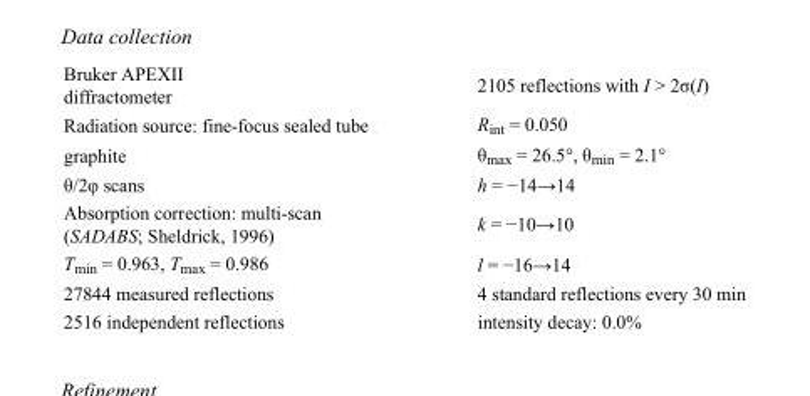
<table><tbody><tr><td>Bruker APEXII diffractometer</td><td>2105 reflections with I &gt; 2σ(I)</td></tr><tr><td>Radiation source: fine-focus sealed tube</td><td>R<sub>int</sub> = 0.050</td></tr><tr><td>graphite</td><td>θ<sub>max</sub> = 26.5°, θ<sub>min</sub> = 2.1°</td></tr><tr><td>θ/2φ scans</td><td>h = −14→14</td></tr><tr><td>Absorption correction: multi-scan (SADABS; Sheldrick, 1996)</td><td>k = −10→10</td></tr><tr><td>T<sub>min</sub> = 0.963, T<sub>max</sub> = 0.986</td><td>l = −16→14</td></tr><tr><td>27844 measured reflections</td><td>4 standard reflections every 30 min</td></tr><tr><td>2516 independent reflections</td><td>intensity decay: 0.0%</td></tr></tbody></table>